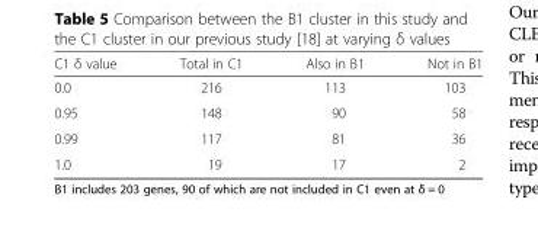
<table><thead><tr><td>C1 δ value</td><td>Total in C1</td><td>Also in B1</td><td>Not in B1</td></tr></thead><tbody><tr><td>0.0</td><td>216</td><td>113</td><td>103</td></tr><tr><td>0.95</td><td>148</td><td>90</td><td>58</td></tr><tr><td>0.99</td><td>117</td><td>81</td><td>36</td></tr><tr><td>1.0</td><td>19</td><td>17</td><td>2</td></tr></tbody></table>